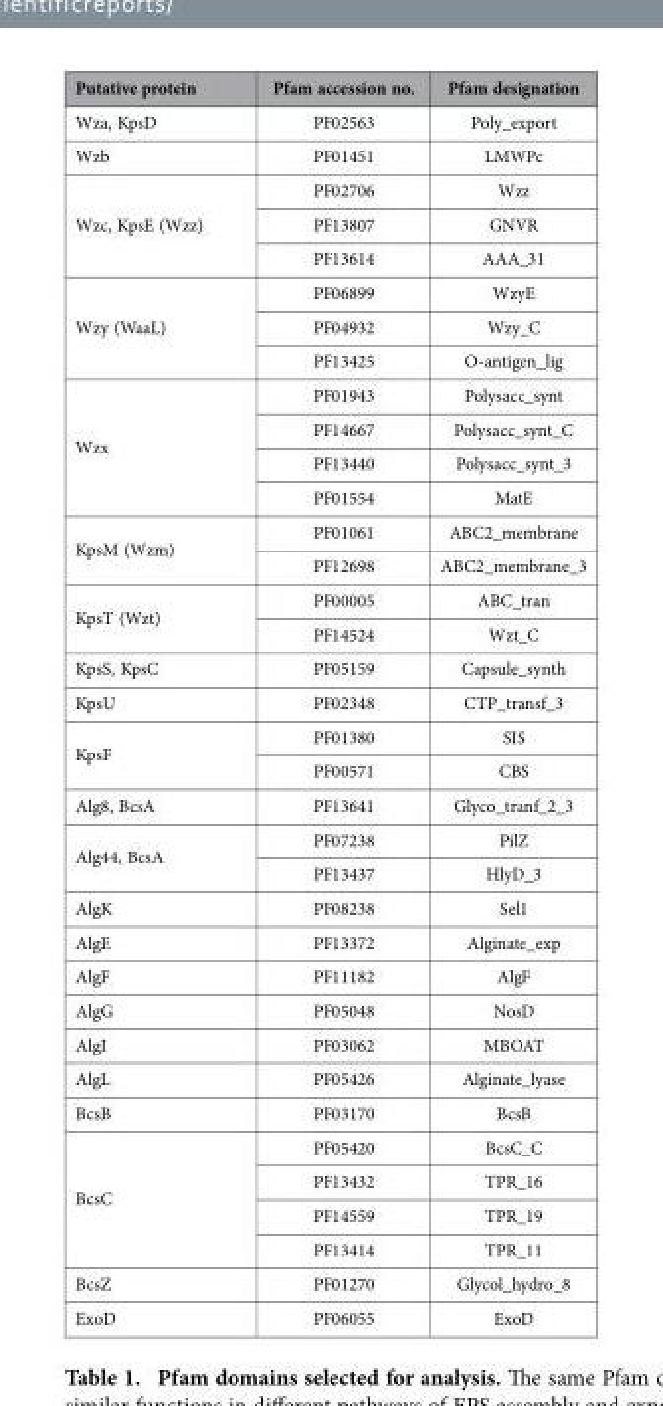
<table><thead><tr><td>Putative protein</td><td>Pfam accession no.</td><td>Pfam designation</td></tr></thead><tbody><tr><td>Wza, KpsD</td><td>PF02563</td><td>Poly_export</td></tr><tr><td>Wzb</td><td>PF01451</td><td>LMWPc</td></tr><tr><td rowspan="3">Wzc, KpsE (Wzz)</td><td>PF02706</td><td>Wzz</td></tr><tr><td>PF13807</td><td>GNVR</td></tr><tr><td>PF13614</td><td>AAA_31</td></tr><tr><td rowspan="3">Wzy (WaaL)</td><td>PF06899</td><td>WzyE</td></tr><tr><td>PF04932</td><td>Wzy_C</td></tr><tr><td>PF13425</td><td>O-antigen_lig</td></tr><tr><td rowspan="4">Wzx</td><td>PF01943</td><td>Polysacc_synt</td></tr><tr><td>PF14667</td><td>Polysacc_synt_C</td></tr><tr><td>PF13440</td><td>Polysacc_synt_3</td></tr><tr><td>PF01554</td><td>MatE</td></tr><tr><td rowspan="2">KpsM (Wzm)</td><td>PF01061</td><td>ABC2_membrane</td></tr><tr><td>PF12698</td><td>ABC2_membrane_3</td></tr><tr><td rowspan="2">KpsT (Wzt)</td><td>PF00005</td><td>ABC_tran</td></tr><tr><td>PF14524</td><td>Wzt_C</td></tr><tr><td>KpsS, KpsC</td><td>PF05159</td><td>Capsule_synth</td></tr><tr><td>KpsU</td><td>PF02348</td><td>CTP_transf_3</td></tr><tr><td rowspan="2">KpsF</td><td>PF01380</td><td>SIS</td></tr><tr><td>PF00571</td><td>CBS</td></tr><tr><td>Alg8, BcsA</td><td>PF13641</td><td>Glyco_tranf_2_3</td></tr><tr><td rowspan="2">Alg44, BcsA</td><td>PF07238</td><td>PilZ</td></tr><tr><td>PF13437</td><td>HlyD_3</td></tr><tr><td>AlgK</td><td>PF08238</td><td>Sel1</td></tr><tr><td>AlgE</td><td>PF13372</td><td>Alginate_exp</td></tr><tr><td>AlgF</td><td>PF11182</td><td>AlgF</td></tr><tr><td>AlgG</td><td>PF05048</td><td>NosD</td></tr><tr><td>AlgI</td><td>PF03062</td><td>MBOAT</td></tr><tr><td>AlgL</td><td>PF05426</td><td>Alginate_lyase</td></tr><tr><td>BcsB</td><td>PF03170</td><td>BcsB</td></tr><tr><td rowspan="4">BcsC</td><td>PF05420</td><td>BcsC_C</td></tr><tr><td>PF13432</td><td>TPR_16</td></tr><tr><td>PF14559</td><td>TPR_19</td></tr><tr><td>PF13414</td><td>TPR_11</td></tr><tr><td>BcsZ</td><td>PF01270</td><td>Glycol_hydro_8</td></tr><tr><td>ExoD</td><td>PF06055</td><td>ExoD</td></tr></tbody></table>